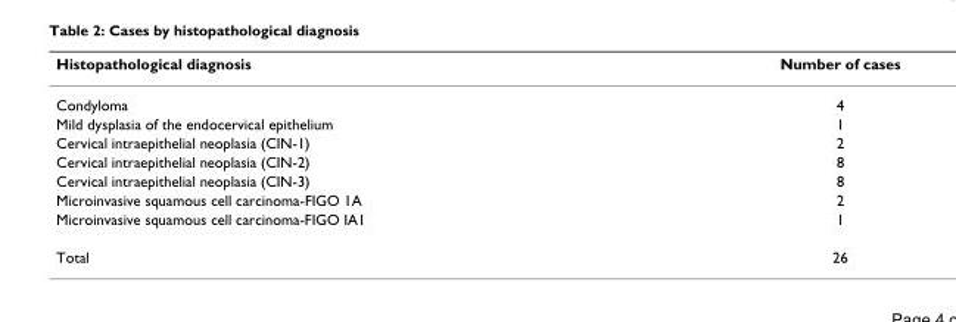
<table><thead><tr><td>Histopathological diagnosis</td><td>Number of cases</td></tr></thead><tbody><tr><td>Condyloma</td><td>4</td></tr><tr><td>Mild dysplasia of the endocervical epithelium</td><td>1</td></tr><tr><td>Cervical intraepithelial neoplasia (CIN-1)</td><td>2</td></tr><tr><td>Cervical intraepithelial neoplasia (CIN-2)</td><td>8</td></tr><tr><td>Cervical intraepithelial neoplasia (CIN-3)</td><td>8</td></tr><tr><td>Microinvasive squamous cell carcinoma-FIGO 1A</td><td>2</td></tr><tr><td>Microinvasive squamous cell carcinoma-FIGO IA1</td><td>1</td></tr><tr><td>Total</td><td>26</td></tr></tbody></table>